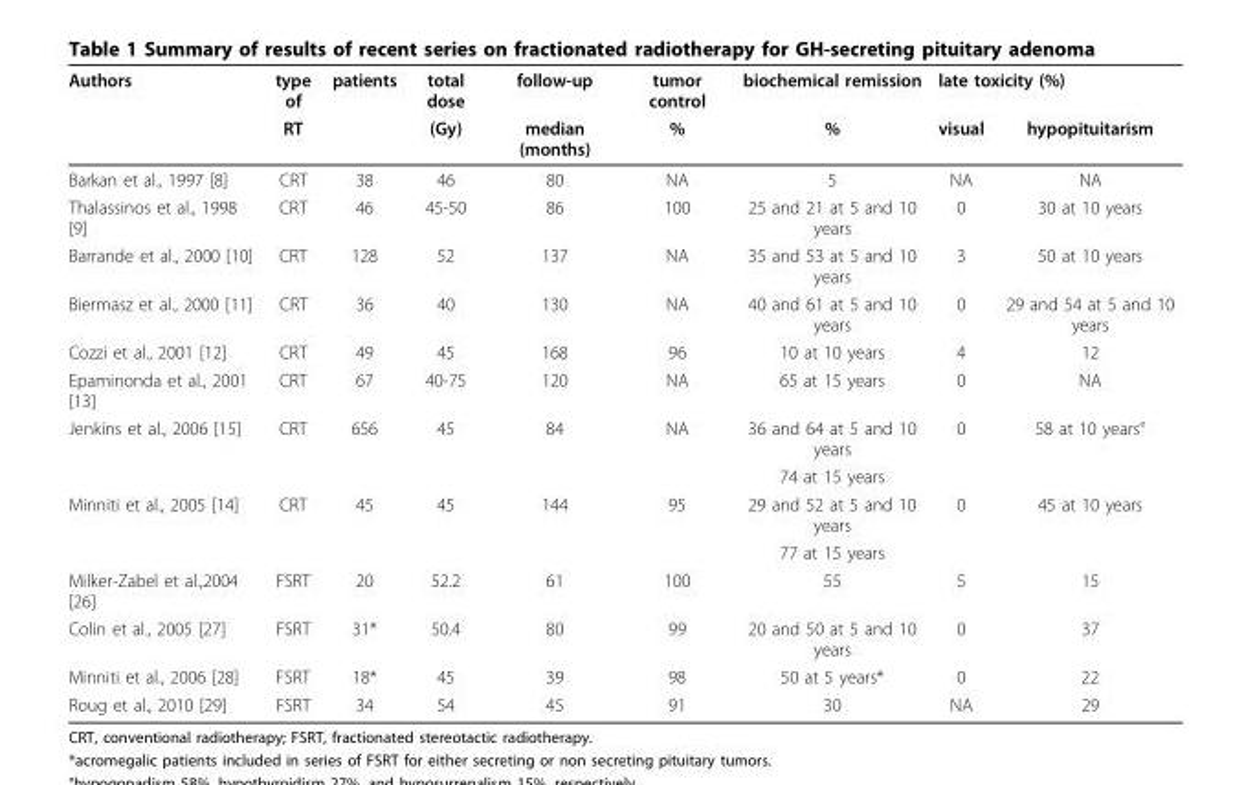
<table><thead><tr><td rowspan="2">Authors</td><td rowspan="2">type of RT</td><td rowspan="2">patients</td><td rowspan="2">total dose (Gy)</td><td rowspan="2">follow-up median (months)</td><td rowspan="2">tumor control %</td><td rowspan="2">biochemical remission %</td><td colspan="2">late toxicity (%)</td></tr><tr><td>visual</td><td>hypopituitarism</td></tr></thead><tbody><tr><td>Barkan et al., 1997 [8]</td><td>CRT</td><td>38</td><td>46</td><td>80</td><td>NA</td><td>5</td><td>NA</td><td>NA</td></tr><tr><td>Thalassinos et al., 1998 [9]</td><td>CRT</td><td>46</td><td>45-50</td><td>86</td><td>100</td><td>25 and 21 at 5 and 10 years</td><td>0</td><td>30 at 10 years</td></tr><tr><td>Barrande et al., 2000 [10]</td><td>CRT</td><td>128</td><td>52</td><td>137</td><td>NA</td><td>35 and 53 at 5 and 10 years</td><td>3</td><td>50 at 10 years</td></tr><tr><td>Biermasz et al., 2000 [11]</td><td>CRT</td><td>36</td><td>40</td><td>130</td><td>NA</td><td>40 and 61 at 5 and 10 years</td><td>0</td><td>29 and 54 at 5 and 10 years</td></tr><tr><td>Cozzi et al., 2001 [12]</td><td>CRT</td><td>49</td><td>45</td><td>168</td><td>96</td><td>10 at 10 years</td><td>4</td><td>12</td></tr><tr><td>Epaminonda et al., 2001 [13]</td><td>CRT</td><td>67</td><td>40-75</td><td>120</td><td>NA</td><td>65 at 15 years</td><td>0</td><td>NA</td></tr><tr><td rowspan="2">Jenkins et al., 2006 [15]</td><td>CRT</td><td>656</td><td>45</td><td>84</td><td>NA</td><td>36 and 64 at 5 and 10 years</td><td>0</td><td>58 at 10 years°</td></tr><tr><td></td><td></td><td></td><td></td><td></td><td>74 at 15 years</td><td></td><td></td></tr><tr><td rowspan="2">Minniti et al., 2005 [14]</td><td>CRT</td><td>45</td><td>45</td><td>144</td><td>95</td><td>29 and 52 at 5 and 10 years</td><td>0</td><td>45 at 10 years</td></tr><tr><td></td><td></td><td></td><td></td><td></td><td>77 at 15 years</td><td></td><td></td></tr><tr><td>Milker-Zabel et al.,2004 [26]</td><td>FSRT</td><td>20</td><td>52.2</td><td>61</td><td>100</td><td>55</td><td>5</td><td>15</td></tr><tr><td>Colin et al., 2005 [27]</td><td>FSRT</td><td>31*</td><td>50.4</td><td>80</td><td>99</td><td>20 and 50 at 5 and 10 years</td><td>0</td><td>37</td></tr><tr><td>Minniti et al., 2006 [28]</td><td>FSRT</td><td>18*</td><td>45</td><td>39</td><td>98</td><td>50 at 5 years*</td><td>0</td><td>22</td></tr><tr><td>Roug et al., 2010 [29]</td><td>FSRT</td><td>34</td><td>54</td><td>45</td><td>91</td><td>30</td><td>NA</td><td>29</td></tr></tbody></table>